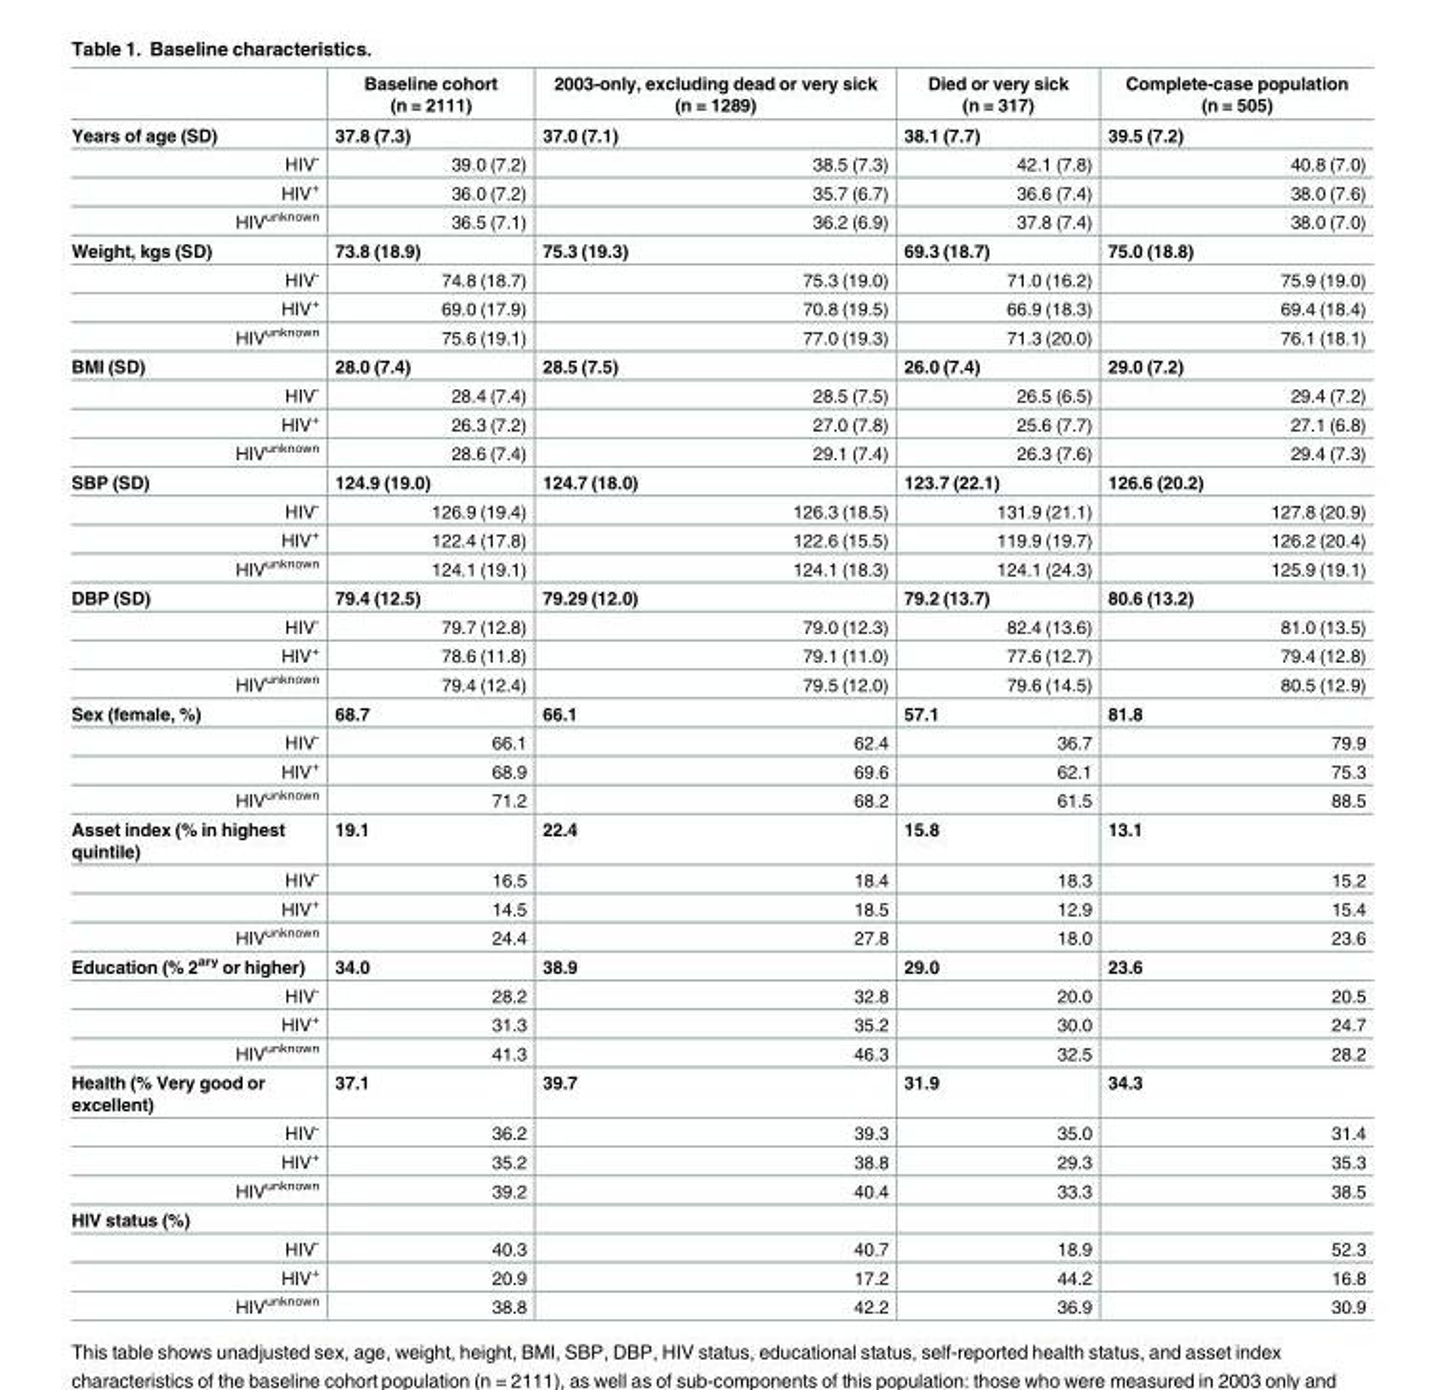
<table><thead><tr><td></td><td>Baseline cohort (n = 2111)</td><td>2003-only, excluding dead or very sick (n = 1289)</td><td>Died or very sick (n = 317)</td><td>Complete-case population (n = 505)</td></tr></thead><tbody><tr><td>Years of age (SD)</td><td>37.8 (7.3)</td><td>37.0 (7.1)</td><td>38.1 (7.7)</td><td>39.5 (7.2)</td></tr><tr><td>HIV<sup>-</sup></td><td>39.0 (7.2)</td><td>38.5 (7.3)</td><td>42.1 (7.8)</td><td>40.8 (7.0)</td></tr><tr><td>HIV<sup>+</sup></td><td>36.0 (7.2)</td><td>35.7 (6.7)</td><td>36.6 (7.4)</td><td>38.0 (7.6)</td></tr><tr><td>HIV<sup>unknown</sup></td><td>36.5 (7.1)</td><td>36.2 (6.9)</td><td>37.8 (7.4)</td><td>38.0 (7.0)</td></tr><tr><td>Weight, kgs (SD)</td><td>73.8 (18.9)</td><td>75.3 (19.3)</td><td>69.3 (18.7)</td><td>75.0 (18.8)</td></tr><tr><td>HIV<sup>-</sup></td><td>74.8 (18.7)</td><td>75.3 (19.0)</td><td>71.0 (16.2)</td><td>75.9 (19.0)</td></tr><tr><td>HIV<sup>+</sup></td><td>69.0 (17.9)</td><td>70.8 (19.5)</td><td>66.9 (18.3)</td><td>69.4 (18.4)</td></tr><tr><td>HIV<sup>unknown</sup></td><td>75.6 (19.1)</td><td>77.0 (19.3)</td><td>71.3 (20.0)</td><td>76.1 (18.1)</td></tr><tr><td>BMI (SD)</td><td>28.0 (7.4)</td><td>28.5 (7.5)</td><td>26.0 (7.4)</td><td>29.0 (7.2)</td></tr><tr><td>HIV<sup>-</sup></td><td>28.4 (7.4)</td><td>28.5 (7.5)</td><td>26.5 (6.5)</td><td>29.4 (7.2)</td></tr><tr><td>HIV<sup>+</sup></td><td>26.3 (7.2)</td><td>27.0 (7.8)</td><td>25.6 (7.7)</td><td>27.1 (6.8)</td></tr><tr><td>HIV<sup>unknown</sup></td><td>28.6 (7.4)</td><td>29.1 (7.4)</td><td>26.3 (7.6)</td><td>29.4 (7.3)</td></tr><tr><td>SBP (SD)</td><td>124.9 (19.0)</td><td>124.7 (18.0)</td><td>123.7 (22.1)</td><td>126.6 (20.2)</td></tr><tr><td>HIV<sup>-</sup></td><td>126.9 (19.4)</td><td>126.3 (18.5)</td><td>131.9 (21.1)</td><td>127.8 (20.9)</td></tr><tr><td>HIV<sup>+</sup></td><td>122.4 (17.8)</td><td>122.6 (15.5)</td><td>119.9 (19.7)</td><td>126.2 (20.4)</td></tr><tr><td>HIV<sup>unknown</sup></td><td>124.1 (19.1)</td><td>124.1 (18.3)</td><td>124.1 (24.3)</td><td>125.9 (19.1)</td></tr><tr><td>DBP (SD)</td><td>79.4 (12.5)</td><td>79.29 (12.0)</td><td>79.2 (13.7)</td><td>80.6 (13.2)</td></tr><tr><td>HIV<sup>-</sup></td><td>79.7 (12.8)</td><td>79.0 (12.3)</td><td>82.4 (13.6)</td><td>81.0 (13.5)</td></tr><tr><td>HIV<sup>+</sup></td><td>78.6 (11.8)</td><td>79.1 (11.0)</td><td>77.6 (12.7)</td><td>79.4 (12.8)</td></tr><tr><td>HIV<sup>unknown</sup></td><td>79.4 (12.4)</td><td>79.5 (12.0)</td><td>79.6 (14.5)</td><td>80.5 (12.9)</td></tr><tr><td>Sex (female, %)</td><td>68.7</td><td>66.1</td><td>57.1</td><td>81.8</td></tr><tr><td>HIV<sup>-</sup></td><td>66.1</td><td>62.4</td><td>36.7</td><td>79.9</td></tr><tr><td>HIV<sup>+</sup></td><td>68.9</td><td>69.6</td><td>62.1</td><td>75.3</td></tr><tr><td>HIV<sup>unknown</sup></td><td>71.2</td><td>68.2</td><td>61.5</td><td>88.5</td></tr><tr><td>Asset index (% in highest quintile)</td><td>19.1</td><td>22.4</td><td>15.8</td><td>13.1</td></tr><tr><td>HIV<sup>-</sup></td><td>16.5</td><td>18.4</td><td>18.3</td><td>15.2</td></tr><tr><td>HIV<sup>+</sup></td><td>14.5</td><td>18.5</td><td>12.9</td><td>15.4</td></tr><tr><td>HIV<sup>unknown</sup></td><td>24.4</td><td>27.8</td><td>18.0</td><td>23.6</td></tr><tr><td>Education (% 2<sup>ary</sup> or higher)</td><td>34.0</td><td>38.9</td><td>29.0</td><td>23.6</td></tr><tr><td>HIV<sup>-</sup></td><td>28.2</td><td>32.8</td><td>20.0</td><td>20.5</td></tr><tr><td>HIV<sup>+</sup></td><td>31.3</td><td>35.2</td><td>30.0</td><td>24.7</td></tr><tr><td>HIV<sup>unknown</sup></td><td>41.3</td><td>46.3</td><td>32.5</td><td>28.2</td></tr><tr><td>Health (% Very good or excellent)</td><td>37.1</td><td>39.7</td><td>31.9</td><td>34.3</td></tr><tr><td>HIV<sup>-</sup></td><td>36.2</td><td>39.3</td><td>35.0</td><td>31.4</td></tr><tr><td>HIV<sup>+</sup></td><td>35.2</td><td>38.8</td><td>29.3</td><td>35.3</td></tr><tr><td>HIV<sup>unknown</sup></td><td>39.2</td><td>40.4</td><td>33.3</td><td>38.5</td></tr><tr><td colspan="5">HIV status (%)</td></tr><tr><td>HIV<sup>-</sup></td><td>40.3</td><td>40.7</td><td>18.9</td><td>52.3</td></tr><tr><td>HIV<sup>+</sup></td><td>20.9</td><td>17.2</td><td>44.2</td><td>16.8</td></tr><tr><td>HIV<sup>unknown</sup></td><td>38.8</td><td>42.2</td><td>36.9</td><td>30.9</td></tr></tbody></table>